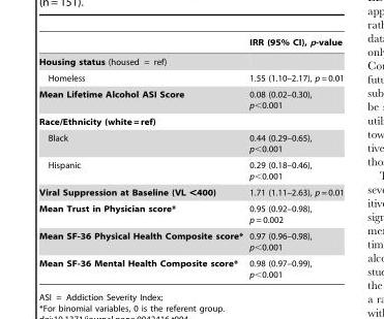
<table><thead><tr><td></td><td>IRR (95% CI), p-value</td></tr></thead><tbody><tr><td colspan="2">Housing status (housed = ref)</td></tr><tr><td>Homeless</td><td>1.55 (1.10–2.17), p = 0.01</td></tr><tr><td>Mean Lifetime Alcohol ASI Score</td><td>0.08 (0.02–0.30), p&lt;0.001</td></tr><tr><td colspan="2">Race/Ethnicity (white = ref)</td></tr><tr><td>Black</td><td>0.44 (0.29–0.65), p&lt;0.001</td></tr><tr><td>Hispanic</td><td>0.29 (0.18–0.46), p&lt;0.001</td></tr><tr><td>Viral Suppression at Baseline (VL &lt;400)</td><td>1.71 (1.11–2.63), p = 0.01</td></tr><tr><td>Mean Trust in Physician score*</td><td>0.95 (0.92–0.98), p = 0.002</td></tr><tr><td>Mean SF-36 Physical Health Composite score*</td><td>0.97 (0.96–0.98), p&lt;0.001</td></tr><tr><td>Mean SF-36 Mental Health Composite score*</td><td>0.98 (0.97–0.99), p&lt;0.001</td></tr></tbody></table>